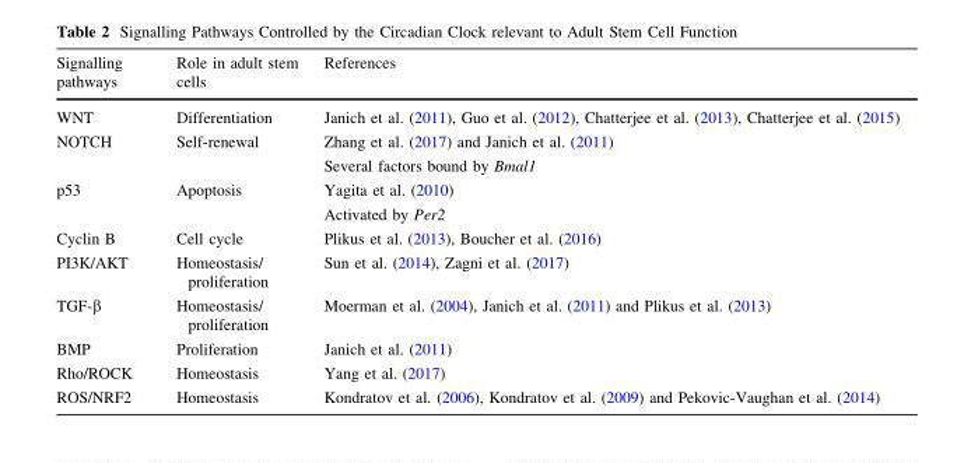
<table><thead><tr><td>Signalling pathways</td><td>Role in adult stem cells</td><td>References</td></tr></thead><tbody><tr><td>WNT</td><td>Differentiation</td><td>Janich et al. (2011), Guo et al. (2012), Chatterjee et al. (2013), Chatterjee et al. (2015)</td></tr><tr><td>NOTCH</td><td>Self-renewal</td><td>Zhang et al. (2017) and Janich et al. (2011) Several factors bound by Bmal1</td></tr><tr><td>p53</td><td>Apoptosis</td><td>Yagita et al. (2010) Activated by Per2</td></tr><tr><td>Cyclin B</td><td>Cell cycle</td><td>Plikus et al. (2013), Boucher et al. (2016)</td></tr><tr><td>PI3K/AKT</td><td>Homeostasis/ proliferation</td><td>Sun et al. (2014), Zagni et al. (2017)</td></tr><tr><td>TGF-β</td><td>Homeostasis/ proliferation</td><td>Moerman et al. (2004), Janich et al. (2011) and Plikus et al. (2013)</td></tr><tr><td>BMP</td><td>Proliferation</td><td>Janich et al. (2011)</td></tr><tr><td>Rho/ROCK ROS/NRF2</td><td>Homeostasis Homeostasis</td><td>Yang et al. (2017) Kondratov et al. (2006), Kondratov et al. (2009) and Pekovic-Vaughan et al. (2014)</td></tr></tbody></table>